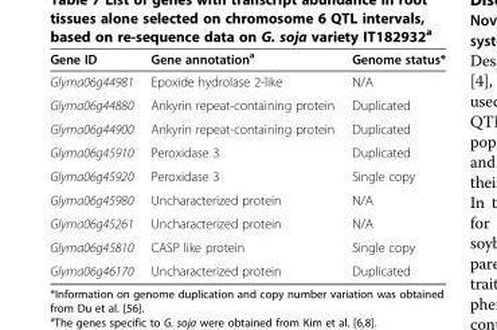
<table><thead><tr><td>Gene ID</td><td>Gene annotation<sup>a</sup></td><td>Genome status*</td></tr></thead><tbody><tr><td>Glyma06g44981</td><td>Epoxide hydrolase 2-like</td><td>N/A</td></tr><tr><td>Glyma06g44880</td><td>Ankyrin repeat-containing protein</td><td>Duplicated</td></tr><tr><td>Glyma06g44900</td><td>Ankyrin repeat-containing protein</td><td>Duplicated</td></tr><tr><td>Glyma06g45910</td><td>Peroxidase 3</td><td>Duplicated</td></tr><tr><td>Glyma06g45920</td><td>Peroxidase 3</td><td>Single copy</td></tr><tr><td>Glyma06g45980</td><td>Uncharacterized protein</td><td>N/A</td></tr><tr><td>Glyma06g45261</td><td>Uncharacterized protein</td><td>N/A</td></tr><tr><td>Glyma06g45810</td><td>CASP like protein</td><td>Single copy</td></tr><tr><td>Glyma06g46170</td><td>Uncharacterized protein</td><td>Duplicated</td></tr></tbody></table>